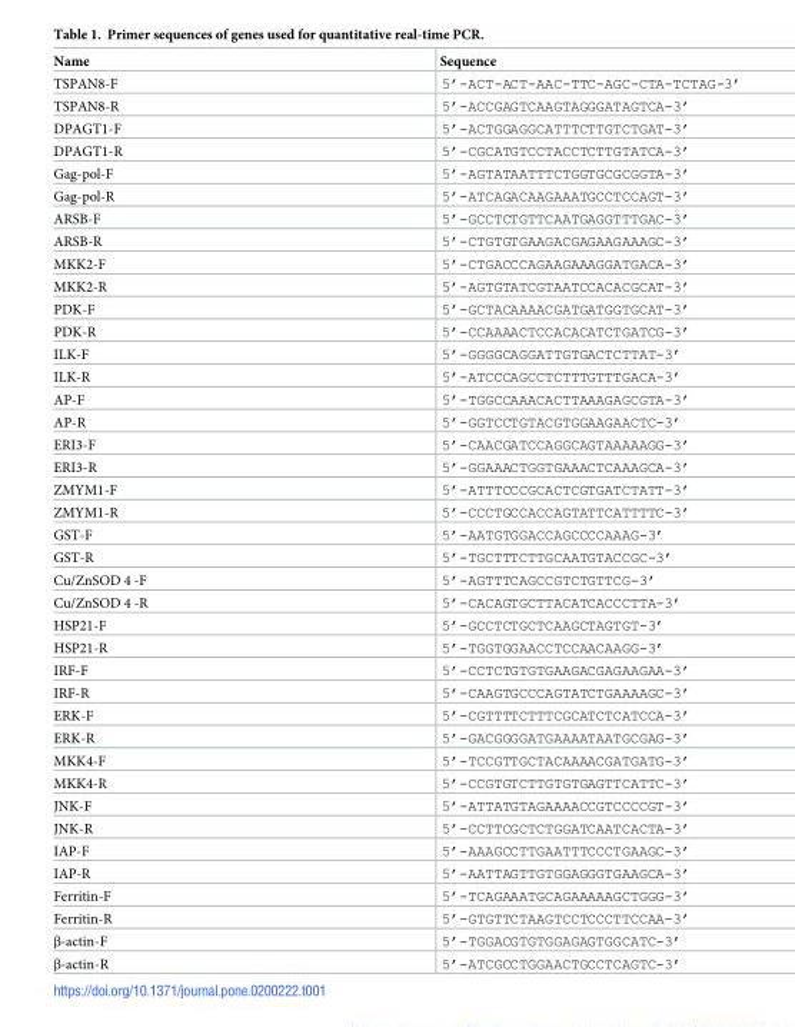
<table><thead><tr><td>Name</td><td>Sequence</td></tr></thead><tbody><tr><td>TSPAN8-F</td><td>5’-ACT-ACT-AAC-TTC-AGC-CTA-TCTAG-3’</td></tr><tr><td>TSPAN8-R</td><td>5’-ACCGAGTCAAGTAGGGATAGTCA-3’</td></tr><tr><td>DPAGT1-F</td><td>5’-ACTGGAGGCATTTCTTGTCTGAT-3’</td></tr><tr><td>DPAGT1-R</td><td>5’-CGCATGTCCTACCTCTTGTATCA-3’</td></tr><tr><td>Gag-pol-F</td><td>5’-AGTATAATTTCTGGTGCGCGGTA-3’</td></tr><tr><td>Gag-pol-R</td><td>5’-ATCAGACAAGAAATGCCTCCAGT-3’</td></tr><tr><td>ARSB-F</td><td>5’-GCCTCTGTTCAATGAGGTTTGAC-3’</td></tr><tr><td>ARSB-R</td><td>5’-CTGTGTGAAGACGAGAAGAAAGC-3’</td></tr><tr><td>MKK2-F</td><td>5’-CTGACCCAGAAGAAAGGATGACA-3’</td></tr><tr><td>MKK2-R</td><td>5’-AGTGTATCGTAATCCACACGCAT-3’</td></tr><tr><td>PDK-F</td><td>5’-GCTACAAAACGATGATGGTGCAT-3’</td></tr><tr><td>PDK-R</td><td>5’-CCAAAACTCCACACATCTGATCG-3’</td></tr><tr><td>ILK-F</td><td>5’-GGGGCAGGATTGTGACTCTTAT-3’</td></tr><tr><td>ILK-R</td><td>5’-ATCCCAGCCTCTTTGTTTGACA-3’</td></tr><tr><td>AP-F</td><td>5’-TGGCCAAACACTTAAAGAGCGTA-3’</td></tr><tr><td>AP-R</td><td>5’-GGTCCTGTACGTGGAAGAACTC-3’</td></tr><tr><td>ERI3-F</td><td>5’-CAACGATCCAGGCAGTAAAAAGG-3’</td></tr><tr><td>ERI3-R</td><td>5’-GGAAACTGGTGAAACTCAAAGCA-3’</td></tr><tr><td>ZMYM1-F</td><td>5’-ATTTCCCGCACTCGTGATCTATT-3’</td></tr><tr><td>ZMYM1-R</td><td>5’-CCCTGCCACCAGTATTCATTTTC-3’</td></tr><tr><td>GST-F</td><td>5’-AATGTGGACCAGCCCCAAAG-3’</td></tr><tr><td>GST-R</td><td>5’-TGCTTTCTTGCAATGTACCGC-3’</td></tr><tr><td>Cu/ZnSOD 4 -F</td><td>5’-AGTTTCAGCCGTCTGTTCG-3’</td></tr><tr><td>Cu/ZnSOD 4 -R</td><td>5’-CACAGTGCTTACATCACCCTTA-3’</td></tr><tr><td>HSP21-F</td><td>5’-GCCTCTGCTCAAGCTAGTGT-3’</td></tr><tr><td>HSP21-R</td><td>5’-TGGTGGAACCTCCAACAAGG-3’</td></tr><tr><td>IRF-F</td><td>5’-CCTCTGTGTGAAGACGAGAAGAA-3’</td></tr><tr><td>IRF-R</td><td>5’-CAAGTGCCCAGTATCTGAAAAGC-3’</td></tr><tr><td>ERK-F</td><td>5’-CGTTTTCTTTCGCATCTCATCCA-3’</td></tr><tr><td>ERK-R</td><td>5’-GACGGGGATGAAAATAATGCGAG-3’</td></tr><tr><td>MKK4-F</td><td>5’-TCCGTTGCTACAAAACGATGATG-3’</td></tr><tr><td>MKK4-R</td><td>5’-CCGTGTCTTGTGTGAGTTCATTC-3’</td></tr><tr><td>JNK-F</td><td>5’-ATTATGTAGAAAACCGTCCCCGT-3’</td></tr><tr><td>JNK-R</td><td>5’-CCTTCGCTCTGGATCAATCACTA-3’</td></tr><tr><td>IAP-F</td><td>5’-AAAGCCTTGAATTTCCCTGAAGC-3’</td></tr><tr><td>IAP-R</td><td>5’-AATTAGTTGTGGAGGGTGAAGCA-3’</td></tr><tr><td>Ferritin-F</td><td>5’-TCAGAAATGCAGAAAAAGCTGGG-3’</td></tr><tr><td>Ferritin-R</td><td>5’-GTGTTCTAAGTCCTCCCTTCCAA-3’</td></tr><tr><td>β-actin-F</td><td>5’-TGGACGTGTGGAGAGTGGCATC-3’</td></tr><tr><td>β-actin-R</td><td>5’-ATCGCCTGGAACTGCCTCAGTC-3’</td></tr></tbody></table>